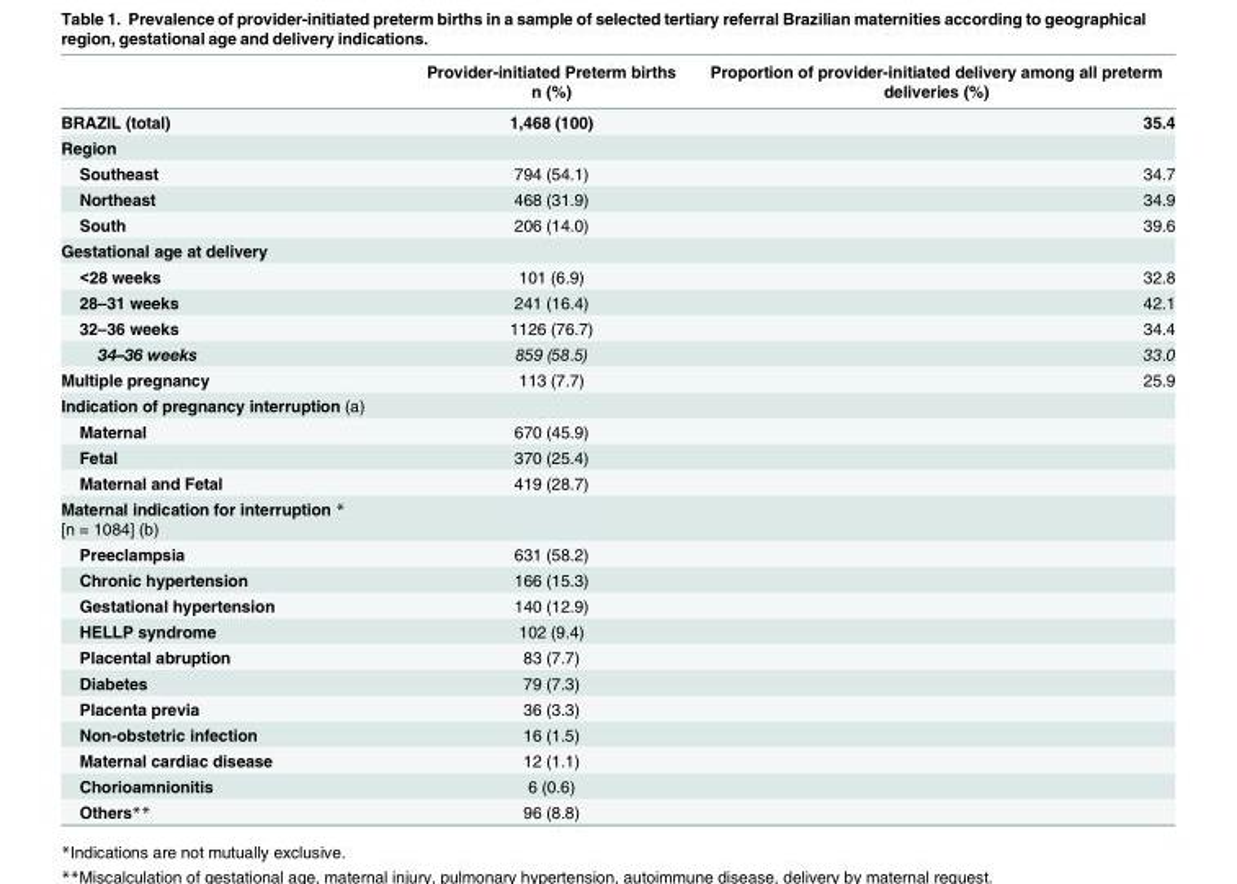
<table><thead><tr><td></td><td>Provider-initiated Preterm births n (%)</td><td>Proportion of provider-initiated delivery among all preterm deliveries (%)</td></tr></thead><tbody><tr><td>BRAZIL (total)</td><td>1,468 (100)</td><td>35.4</td></tr><tr><td colspan="3">Region</td></tr><tr><td>Southeast</td><td>794 (54.1)</td><td>34.7</td></tr><tr><td>Northeast</td><td>468 (31.9)</td><td>34.9</td></tr><tr><td>South</td><td>206 (14.0)</td><td>39.6</td></tr><tr><td colspan="3">Gestational age at delivery</td></tr><tr><td>&lt;28 weeks</td><td>101 (6.9)</td><td>32.8</td></tr><tr><td>28–31 weeks</td><td>241 (16.4)</td><td>42.1</td></tr><tr><td>32–36 weeks</td><td>1126 (76.7)</td><td>34.4</td></tr><tr><td>34–36 weeks</td><td>859 (58.5)</td><td>33.0</td></tr><tr><td>Multiple pregnancy</td><td>113 (7.7)</td><td>25.9</td></tr><tr><td colspan="3">Indication of pregnancy interruption (a)</td></tr><tr><td>Maternal</td><td>670 (45.9)</td><td></td></tr><tr><td>Fetal</td><td>370 (25.4)</td><td></td></tr><tr><td>Maternal and Fetal</td><td>419 (28.7)</td><td></td></tr><tr><td colspan="3">Maternal indication for interruption * [n = 1084] (b)</td></tr><tr><td>Preeclampsia</td><td>631 (58.2)</td><td></td></tr><tr><td>Chronic hypertension</td><td>166 (15.3)</td><td></td></tr><tr><td>Gestational hypertension</td><td>140 (12.9)</td><td></td></tr><tr><td>HELLP syndrome</td><td>102 (9.4)</td><td></td></tr><tr><td>Placental abruption</td><td>83 (7.7)</td><td></td></tr><tr><td>Diabetes</td><td>79 (7.3)</td><td></td></tr><tr><td>Placenta previa</td><td>36 (3.3)</td><td></td></tr><tr><td>Non-obstetric infection</td><td>16 (1.5)</td><td></td></tr><tr><td>Maternal cardiac disease</td><td>12 (1.1)</td><td></td></tr><tr><td>Chorioamnionitis</td><td>6 (0.6)</td><td></td></tr><tr><td>Others**</td><td>96 (8.8)</td><td></td></tr></tbody></table>